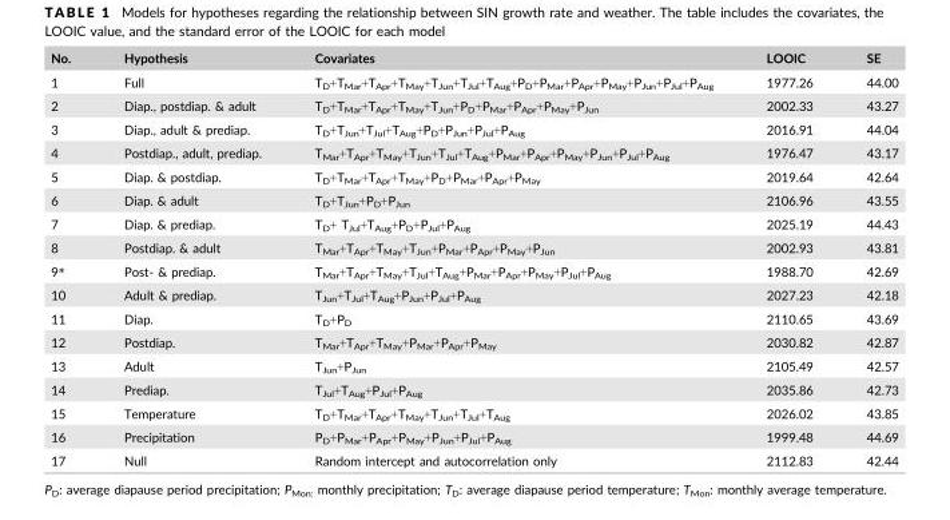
<table><thead><tr><td>No.</td><td>Hypothesis</td><td>Covariates</td><td>LOOIC</td><td>SE</td></tr></thead><tbody><tr><td>1</td><td>Full</td><td>T<sub>D</sub>+T<sub>Mar</sub>+T<sub>Apr</sub>+T<sub>May</sub>+T<sub>Jun</sub>+T<sub>Jul</sub>+T<sub>Aug</sub>+P<sub>D</sub>+P<sub>Mar</sub>+P<sub>Apr</sub>+P<sub>May</sub>+P<sub>Jun</sub>+P<sub>Jul</sub>+P<sub>Aug</sub></td><td>1977.26</td><td>44.00</td></tr><tr><td>2</td><td>Diap., postdiap. &amp; adult</td><td>T<sub>D</sub>+T<sub>Mar</sub>+T<sub>Apr</sub>+T<sub>May</sub>+T<sub>Jun</sub>+P<sub>D</sub>+P<sub>Mar</sub>+P<sub>Apr</sub>+P<sub>May</sub>+P<sub>Jun</sub></td><td>2002.33</td><td>43.27</td></tr><tr><td>3</td><td>Diap., adult &amp; prediap.</td><td>T<sub>D</sub>+T<sub>Jun</sub>+T<sub>Jul</sub>+T<sub>Aug</sub>+P<sub>D</sub>+P<sub>Jun</sub>+P<sub>Jul</sub>+P<sub>Aug</sub></td><td>2016.91</td><td>44.04</td></tr><tr><td>4</td><td>Postdiap., adult, prediap.</td><td>T<sub>Mar</sub>+T<sub>Apr</sub>+T<sub>May</sub>+T<sub>Jun</sub>+T<sub>Jul</sub>+T<sub>Aug</sub>+P<sub>Mar</sub>+P<sub>Apr</sub>+P<sub>May</sub>+P<sub>Jun</sub>+P<sub>Jul</sub>+P<sub>Aug</sub></td><td>1976.47</td><td>43.17</td></tr><tr><td>5</td><td>Diap. &amp; postdiap.</td><td>T<sub>D</sub>+T<sub>Mar</sub>+T<sub>Apr</sub>+T<sub>May</sub>+P<sub>D</sub>+P<sub>Mar</sub>+P<sub>Apr</sub>+P<sub>May</sub></td><td>2019.64</td><td>42.64</td></tr><tr><td>6</td><td>Diap. &amp; adult</td><td>T<sub>D</sub>+T<sub>Jun</sub>+P<sub>D</sub>+P<sub>Jun</sub></td><td>2106.96</td><td>43.55</td></tr><tr><td>7</td><td>Diap. &amp; prediap.</td><td>T<sub>D</sub>+ T<sub>Jul</sub>+T<sub>Aug</sub>+P<sub>D</sub>+P<sub>Jul</sub>+P<sub>Aug</sub></td><td>2025.19</td><td>44.43</td></tr><tr><td>8</td><td>Postdiap. &amp; adult</td><td>T<sub>Mar</sub>+T<sub>Apr</sub>+T<sub>May</sub>+T<sub>Jun</sub>+P<sub>Mar</sub>+P<sub>Apr</sub>+P<sub>May</sub>+P<sub>Jun</sub></td><td>2002.93</td><td>43.81</td></tr><tr><td>9*</td><td>Post- &amp; prediap.</td><td>T<sub>Mar</sub>+T<sub>Apr</sub>+T<sub>May</sub>+T<sub>Jul</sub>+T<sub>Aug</sub>+P<sub>Mar</sub>+P<sub>Apr</sub>+P<sub>May</sub>+P<sub>Jul</sub>+P<sub>Aug</sub></td><td>1988.70</td><td>42.69</td></tr><tr><td>10</td><td>Adult &amp; prediap.</td><td>T<sub>Jun</sub>+T<sub>Jul</sub>+T<sub>Aug</sub>+P<sub>Jun</sub>+P<sub>Jul</sub>+P<sub>Aug</sub></td><td>2027.23</td><td>42.18</td></tr><tr><td>11</td><td>Diap.</td><td>T<sub>D</sub>+P<sub>D</sub></td><td>2110.65</td><td>43.69</td></tr><tr><td>12</td><td>Postdiap.</td><td>T<sub>Mar</sub>+T<sub>Apr</sub>+T<sub>May</sub>+P<sub>Mar</sub>+P<sub>Apr</sub>+P<sub>May</sub></td><td>2030.82</td><td>42.87</td></tr><tr><td>13</td><td>Adult</td><td>T<sub>Jun</sub>+P<sub>Jun</sub></td><td>2105.49</td><td>42.57</td></tr><tr><td>14</td><td>Prediap.</td><td>T<sub>Jul</sub>+T<sub>Aug</sub>+P<sub>Jul</sub>+P<sub>Aug</sub></td><td>2035.86</td><td>42.73</td></tr><tr><td>15</td><td>Temperature</td><td>T<sub>D</sub>+T<sub>Mar</sub>+T<sub>Apr</sub>+T<sub>May</sub>+T<sub>Jun</sub>+T<sub>Jul</sub>+T<sub>Aug</sub></td><td>2026.02</td><td>43.85</td></tr><tr><td>16</td><td>Precipitation</td><td>P<sub>D</sub>+P<sub>Mar</sub>+P<sub>Apr</sub>+P<sub>May</sub>+P<sub>Jun</sub>+P<sub>Jul</sub>+P<sub>Aug</sub></td><td>1999.48</td><td>44.69</td></tr><tr><td>17</td><td>Null</td><td>Random intercept and autocorrelation only</td><td>2112.83</td><td>42.44</td></tr></tbody></table>